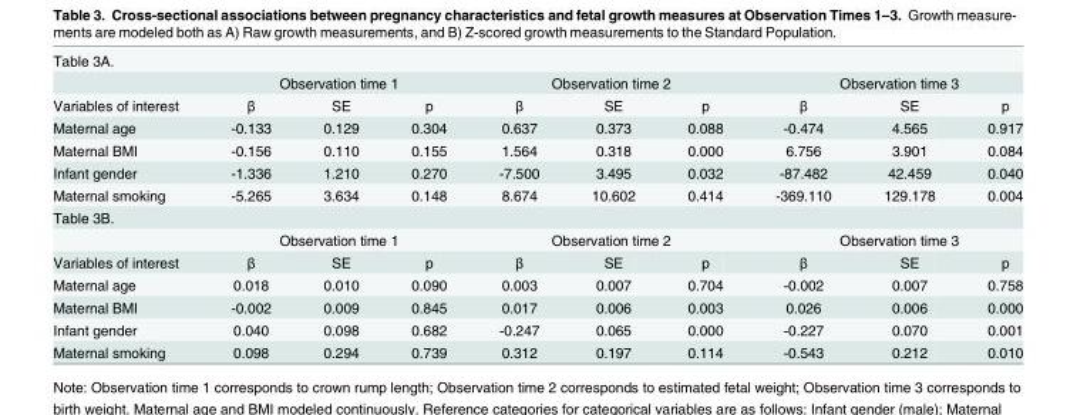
<table><tbody><tr><td colspan="10">Table 3A.</td></tr><tr><td></td><td colspan="3">Observation time 1</td><td colspan="3">Observation time 2</td><td colspan="3">Observation time 3</td></tr><tr><td>Variables of interest</td><td>β</td><td>SE</td><td>p</td><td>β</td><td>SE</td><td>p</td><td>β</td><td>SE</td><td>p</td></tr><tr><td>Maternal age</td><td>-0.133</td><td>0.129</td><td>0.304</td><td>0.637</td><td>0.373</td><td>0.088</td><td>-0.474</td><td>4.565</td><td>0.917</td></tr><tr><td>Maternal BMI</td><td>-0.156</td><td>0.110</td><td>0.155</td><td>1.564</td><td>0.318</td><td>0.000</td><td>6.756</td><td>3.901</td><td>0.084</td></tr><tr><td>Infant gender</td><td>-1.336</td><td>1.210</td><td>0.270</td><td>-7.500</td><td>3.495</td><td>0.032</td><td>-87.482</td><td>42.459</td><td>0.040</td></tr><tr><td>Maternal smoking</td><td>-5.265</td><td>3.634</td><td>0.148</td><td>8.674</td><td>10.602</td><td>0.414</td><td>-369.110</td><td>129.178</td><td>0.004</td></tr><tr><td colspan="10">Table 3B.</td></tr><tr><td></td><td colspan="3">Observation time 1</td><td colspan="3">Observation time 2</td><td colspan="3">Observation time 3</td></tr><tr><td>Variables of interest</td><td>β</td><td>SE</td><td>p</td><td>β</td><td>SE</td><td>p</td><td>β</td><td>SE</td><td>p</td></tr><tr><td>Maternal age</td><td>0.018</td><td>0.010</td><td>0.090</td><td>0.003</td><td>0.007</td><td>0.704</td><td>-0.002</td><td>0.007</td><td>0.758</td></tr><tr><td>Maternal BMI</td><td>-0.002</td><td>0.009</td><td>0.845</td><td>0.017</td><td>0.006</td><td>0.003</td><td>0.026</td><td>0.006</td><td>0.000</td></tr><tr><td>Infant gender</td><td>0.040</td><td>0.098</td><td>0.682</td><td>-0.247</td><td>0.065</td><td>0.000</td><td>-0.227</td><td>0.070</td><td>0.001</td></tr><tr><td>Maternal smoking</td><td>0.098</td><td>0.294</td><td>0.739</td><td>0.312</td><td>0.197</td><td>0.114</td><td>-0.543</td><td>0.212</td><td>0.010</td></tr></tbody></table>